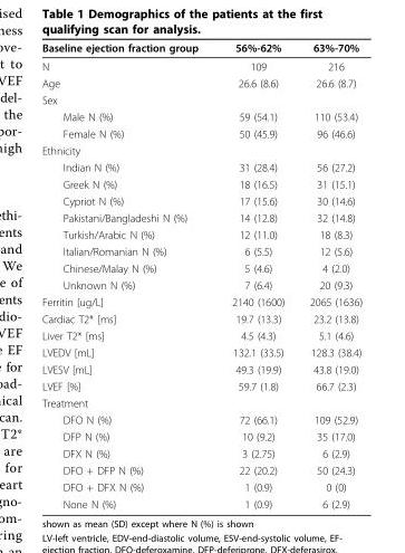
<table><thead><tr><td>Baseline ejection fraction group</td><td>56%-62%</td><td>63%-70%</td></tr></thead><tbody><tr><td>N</td><td>109</td><td>216</td></tr><tr><td>Age</td><td>26.6 (8.6)</td><td>26.6 (8.7)</td></tr><tr><td colspan="3">Sex</td></tr><tr><td>Male N (%)</td><td>59 (54.1)</td><td>110 (53.4)</td></tr><tr><td>Female N (%)</td><td>50 (45.9)</td><td>96 (46.6)</td></tr><tr><td colspan="3">Ethnicity</td></tr><tr><td>Indian N (%)</td><td>31 (28.4)</td><td>56 (27.2)</td></tr><tr><td>Greek N (%)</td><td>18 (16.5)</td><td>31 (15.1)</td></tr><tr><td>Cypriot N (%)</td><td>17 (15.6)</td><td>30 (14.6)</td></tr><tr><td>Pakistani/Bangladeshi N (%)</td><td>14 (12.8)</td><td>32 (14.8)</td></tr><tr><td>Turkish/Arabic N (%)</td><td>12 (11.0)</td><td>18 (8.3)</td></tr><tr><td>Italian/Romanian N (%)</td><td>6 (5.5)</td><td>12 (5.6)</td></tr><tr><td>Chinese/Malay N (%)</td><td>5 (4.6)</td><td>4 (2.0)</td></tr><tr><td>Unknown N (%)</td><td>7 (6.4)</td><td>20 (9.3)</td></tr><tr><td>Ferritin [ug/L]</td><td>2140 (1600)</td><td>2065 (1636)</td></tr><tr><td>Cardiac T2* [ms]</td><td>19.7 (13.3)</td><td>23.2 (13.8)</td></tr><tr><td>Liver T2* [ms]</td><td>4.5 (4.3)</td><td>5.1 (4.6)</td></tr><tr><td>LVEDV [mL]</td><td>132.1 (33.5)</td><td>128.3 (38.4)</td></tr><tr><td>LVESV [mL]</td><td>49.3 (19.9)</td><td>43.8 (19.0)</td></tr><tr><td>LVEF [%]</td><td>59.7 (1.8)</td><td>66.7 (2.3)</td></tr><tr><td colspan="3">Treatment</td></tr><tr><td>DFO N (%)</td><td>72 (66.1)</td><td>109 (52.9)</td></tr><tr><td>DFP N (%)</td><td>10 (9.2)</td><td>35 (17.0)</td></tr><tr><td>DFX N (%)</td><td>3 (2.75)</td><td>6 (2.9)</td></tr><tr><td>DFO + DFP N (%)</td><td>22 (20.2)</td><td>50 (24.3)</td></tr><tr><td>DFO + DFX N (%)</td><td>1 (0.9)</td><td>0 (0)</td></tr><tr><td>None N (%)</td><td>1 (0.9)</td><td>6 (2.9)</td></tr></tbody></table>